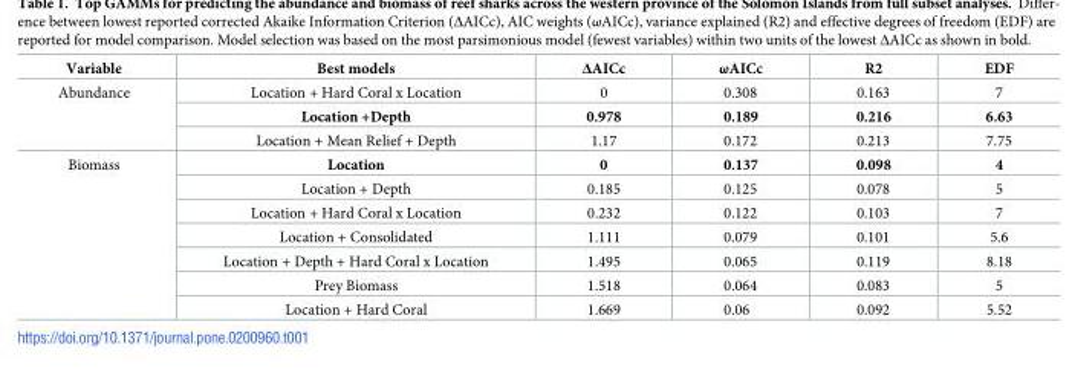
<table><thead><tr><td>Variable</td><td>Best models</td><td>ΔAICc</td><td>ωAICc</td><td>R2</td><td>EDF</td></tr></thead><tbody><tr><td rowspan="3">Abundance</td><td>Location + Hard Coral x Location</td><td>0</td><td>0.308</td><td>0.163</td><td>7</td></tr><tr><td>Location +Depth</td><td>0.978</td><td>0.189</td><td>0.216</td><td>6.63</td></tr><tr><td>Location + Mean Relief + Depth</td><td>1.17</td><td>0.172</td><td>0.213</td><td>7.75</td></tr><tr><td rowspan="7">Biomass</td><td>Location</td><td>0</td><td>0.137</td><td>0.098</td><td>4</td></tr><tr><td>Location + Depth</td><td>0.185</td><td>0.125</td><td>0.078</td><td>5</td></tr><tr><td>Location + Hard Coral x Location</td><td>0.232</td><td>0.122</td><td>0.103</td><td>7</td></tr><tr><td>Location + Consolidated</td><td>1.111</td><td>0.079</td><td>0.101</td><td>5.6</td></tr><tr><td>Location + Depth + Hard Coral x Location</td><td>1.495</td><td>0.065</td><td>0.119</td><td>8.18</td></tr><tr><td>Prey Biomass</td><td>1.518</td><td>0.064</td><td>0.083</td><td>5</td></tr><tr><td>Location + Hard Coral</td><td>1.669</td><td>0.06</td><td>0.092</td><td>5.52</td></tr></tbody></table>